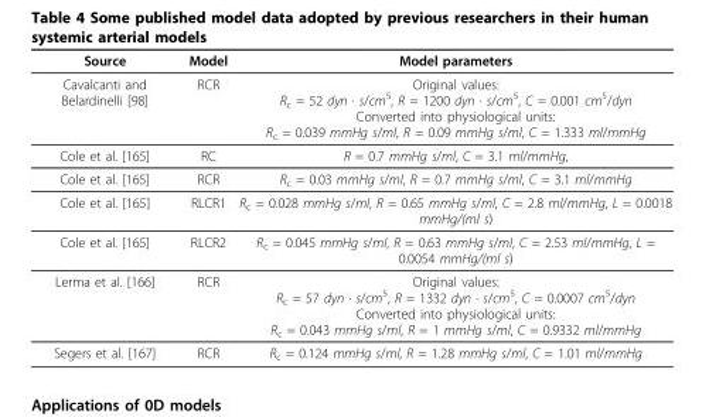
<table><thead><tr><td>Source</td><td>Model</td><td>Model parameters</td></tr></thead><tbody><tr><td>Cavalcanti and Belardinelli [98]</td><td>RCR</td><td>Original values: R<sub>c</sub> = 52 dyn · s/cm<sup>5</sup>, R = 1200 dyn · s/cm<sup>5</sup>, C = 0.001 cm<sup>5</sup>/dyn Converted into physiological units: R<sub>c</sub> = 0.039 mmHg s/ml, R = 0.09 mmHg s/ml, C = 1.333 ml/mmHg</td></tr><tr><td>Cole et al. [165]</td><td>RC</td><td>R = 0.7 mmHg s/ml, C = 3.1 ml/mmHg,</td></tr><tr><td>Cole et al. [165]</td><td>RCR</td><td>R<sub>c</sub> = 0.03 mmHg s/ml, R = 0.7 mmHg s/ml, C = 3.1 ml/mmHg</td></tr><tr><td>Cole et al. [165]</td><td>RLCR1</td><td>R<sub>c</sub> = 0.028 mmHg s/ml, R = 0.65 mmHg s/ml, C = 2.8 ml/mmHg, L = 0.0018 mmHg/(ml s)</td></tr><tr><td>Cole et al. [165]</td><td>RLCR2</td><td>R<sub>c</sub> = 0.045 mmHg s/ml, R = 0.63 mmHg s/ml, C = 2.53 ml/mmHg, L = 0.0054 mmHg/(ml s)</td></tr><tr><td>Lerma et al. [166]</td><td>RCR</td><td>Original values: R<sub>c</sub> = 57 dyn · s/cm<sup>5</sup>, R = 1332 dyn · s/cm<sup>5</sup>, C = 0.0007 cm<sup>5</sup>/dyn Converted into physiological units: R<sub>c</sub> = 0.043 mmHg s/ml, R = 1 mmHg s/ml, C = 0.9332 ml/mmHg</td></tr><tr><td>Segers et al. [167]</td><td>RCR</td><td>R<sub>c</sub> = 0.124 mmHg s/ml, R = 1.28 mmHg s/ml, C = 1.01 ml/mmHg</td></tr></tbody></table>